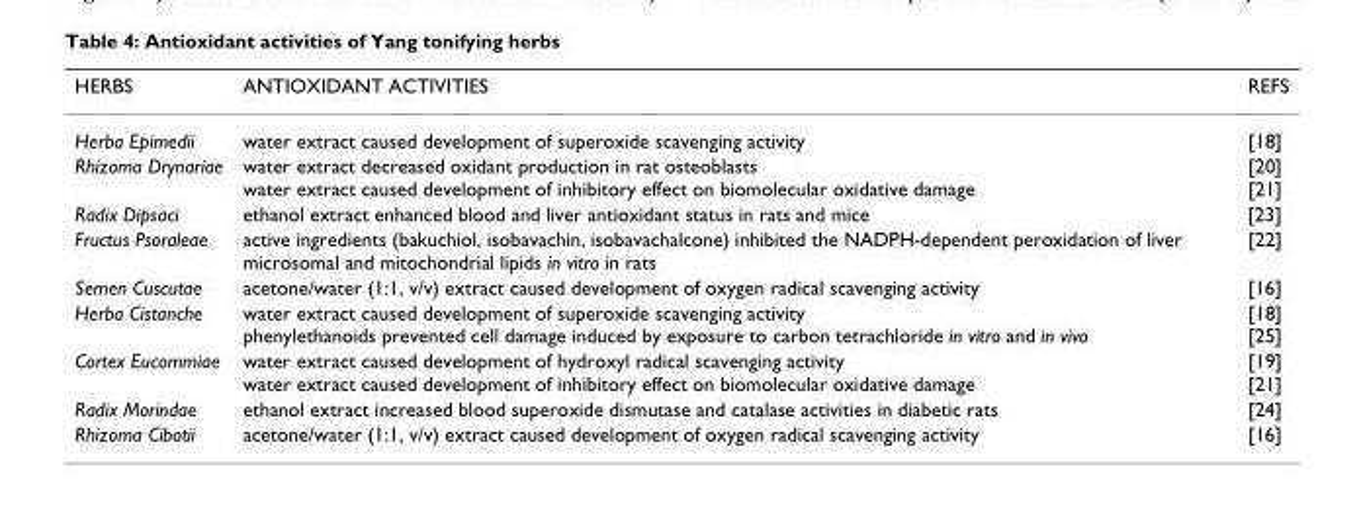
<table><thead><tr><td>HERBS</td><td>ANTIOXIDANT ACTIVITIES</td><td>REFS</td></tr></thead><tbody><tr><td>Herba Epimedii</td><td>water extract caused development of superoxide scavenging activity</td><td>[18]</td></tr><tr><td>Rhizoma Drynariae</td><td>water extract decreased oxidant production in rat osteoblasts water extract caused development of inhibitory effect on biomolecular oxidative damage</td><td>[20] [21]</td></tr><tr><td>Radix Dipsaci</td><td>ethanol extract enhanced blood and liver antioxidant status in rats and mice</td><td>[23]</td></tr><tr><td>Fructus Psoraleae</td><td>active ingredients (bakuchiol, isobavachin, isobavachalcone) inhibited the NADPH-dependent peroxidation of liver microsomal and mitochondrial lipids in vitro in rats</td><td>[22]</td></tr><tr><td>Semen Cuscutae</td><td>acetone/water (1:1, v/v) extract caused development of oxygen radical scavenging activity</td><td>[16]</td></tr><tr><td>Herba Cistanche</td><td>water extract caused development of superoxide scavenging activity phenylethanoids prevented cell damage induced by exposure to carbon tetrachloride in vitro and in vivo</td><td>[18] [25]</td></tr><tr><td>Cortex Eucommiae</td><td>water extract caused development of hydroxyl radical scavenging activity water extract caused development of inhibitory effect on biomolecular oxidative damage</td><td>[19] [21]</td></tr><tr><td>Radix Morindae</td><td>ethanol extract increased blood superoxide dismutase and catalase activities in diabetic rats</td><td>[24]</td></tr><tr><td>Rhizoma Cibotii</td><td>acetone/water (1:1, v/v) extract caused development of oxygen radical scavenging activity</td><td>[16]</td></tr></tbody></table>